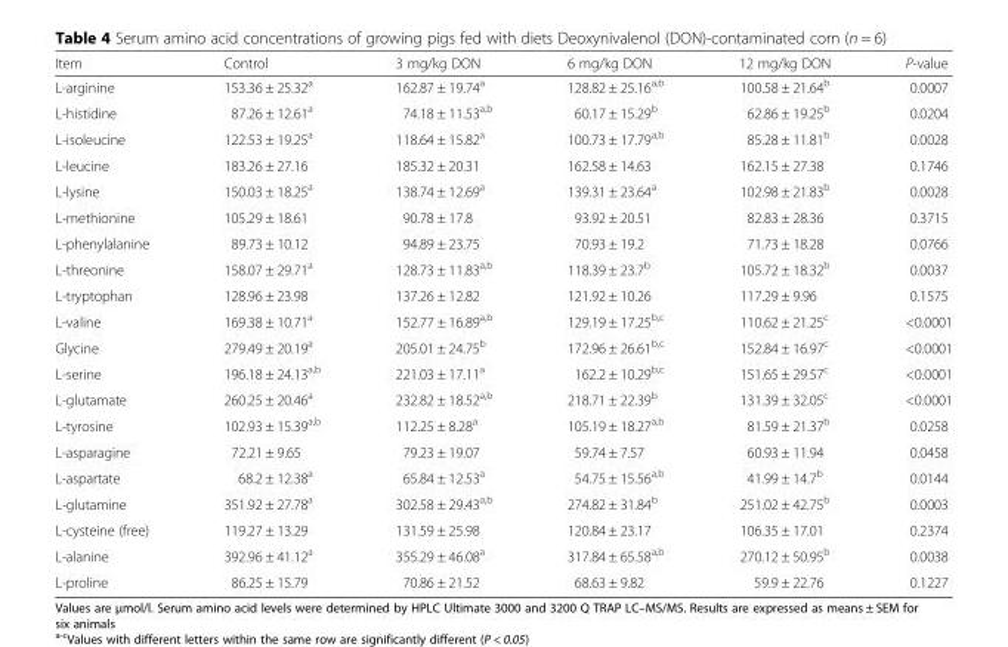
<table><thead><tr><td>Item</td><td>Control</td><td>3 mg/kg DON</td><td>6 mg/kg DON</td><td>12 mg/kg DON</td><td>P-value</td></tr></thead><tbody><tr><td>L-arginine</td><td>153.36 ± 25.32<sup>a</sup></td><td>162.87 ± 19.74<sup>a</sup></td><td>128.82 ± 25.16<sup>a,b</sup></td><td>100.58 ± 21.64<sup>b</sup></td><td>0.0007</td></tr><tr><td>L-histidine</td><td>87.26 ± 12.61<sup>a</sup></td><td>74.18 ± 11.53<sup>a,b</sup></td><td>60.17 ± 15.29<sup>b</sup></td><td>62.86 ± 19.25<sup>b</sup></td><td>0.0204</td></tr><tr><td>L-isoleucine</td><td>122.53 ± 19.25<sup>a</sup></td><td>118.64 ± 15.82<sup>a</sup></td><td>100.73 ± 17.79<sup>a,b</sup></td><td>85.28 ± 11.81<sup>b</sup></td><td>0.0028</td></tr><tr><td>L-leucine</td><td>183.26 ± 27.16</td><td>185.32 ± 20.31</td><td>162.58 ± 14.63</td><td>162.15 ± 27.38</td><td>0.1746</td></tr><tr><td>L-lysine</td><td>150.03 ± 18.25<sup>a</sup></td><td>138.74 ± 12.69<sup>a</sup></td><td>139.31 ± 23.64<sup>a</sup></td><td>102.98 ± 21.83<sup>b</sup></td><td>0.0028</td></tr><tr><td>L-methionine</td><td>105.29 ± 18.61</td><td>90.78 ± 17.8</td><td>93.92 ± 20.51</td><td>82.83 ± 28.36</td><td>0.3715</td></tr><tr><td>L-phenylalanine</td><td>89.73 ± 10.12</td><td>94.89 ± 23.75</td><td>70.93 ± 19.2</td><td>71.73 ± 18.28</td><td>0.0766</td></tr><tr><td>L-threonine</td><td>158.07 ± 29.71<sup>a</sup></td><td>128.73 ± 11.83<sup>a,b</sup></td><td>118.39 ± 23.7<sup>b</sup></td><td>105.72 ± 18.32<sup>b</sup></td><td>0.0037</td></tr><tr><td>L-tryptophan</td><td>128.96 ± 23.98</td><td>137.26 ± 12.82</td><td>121.92 ± 10.26</td><td>117.29 ± 9.96</td><td>0.1575</td></tr><tr><td>L-valine</td><td>169.38 ± 10.71<sup>a</sup></td><td>152.77 ± 16.89<sup>a,b</sup></td><td>129.19 ± 17.25<sup>b,c</sup></td><td>110.62 ± 21.25<sup>c</sup></td><td>&lt;0.0001</td></tr><tr><td>Glycine</td><td>279.49 ± 20.19<sup>a</sup></td><td>205.01 ± 24.75<sup>b</sup></td><td>172.96 ± 26.61<sup>b,c</sup></td><td>152.84 ± 16.97<sup>c</sup></td><td>&lt;0.0001</td></tr><tr><td>L-serine</td><td>196.18 ± 24.13<sup>a,b</sup></td><td>221.03 ± 17.11<sup>a</sup></td><td>162.2 ± 10.29<sup>b,c</sup></td><td>151.65 ± 29.57<sup>c</sup></td><td>&lt;0.0001</td></tr><tr><td>L-glutamate</td><td>260.25 ± 20.46<sup>a</sup></td><td>232.82 ± 18.52<sup>a,b</sup></td><td>218.71 ± 22.39<sup>b</sup></td><td>131.39 ± 32.05<sup>c</sup></td><td>&lt;0.0001</td></tr><tr><td>L-tyrosine</td><td>102.93 ± 15.39<sup>a,b</sup></td><td>112.25 ± 8.28<sup>a</sup></td><td>105.19 ± 18.27<sup>a,b</sup></td><td>81.59 ± 21.37<sup>b</sup></td><td>0.0258</td></tr><tr><td>L-asparagine</td><td>72.21 ± 9.65</td><td>79.23 ± 19.07</td><td>59.74 ± 7.57</td><td>60.93 ± 11.94</td><td>0.0458</td></tr><tr><td>L-aspartate</td><td>68.2 ± 12.38<sup>a</sup></td><td>65.84 ± 12.53<sup>a</sup></td><td>54.75 ± 15.56<sup>a,b</sup></td><td>41.99 ± 14.7<sup>b</sup></td><td>0.0144</td></tr><tr><td>L-glutamine</td><td>351.92 ± 27.78<sup>a</sup></td><td>302.58 ± 29.43<sup>a,b</sup></td><td>274.82 ± 31.84<sup>b</sup></td><td>251.02 ± 42.75<sup>b</sup></td><td>0.0003</td></tr><tr><td>L-cysteine (free)</td><td>119.27 ± 13.29</td><td>131.59 ± 25.98</td><td>120.84 ± 23.17</td><td>106.35 ± 17.01</td><td>0.2374</td></tr><tr><td>L-alanine</td><td>392.96 ± 41.12<sup>a</sup></td><td>355.29 ± 46.08<sup>a</sup></td><td>317.84 ± 65.58<sup>a,b</sup></td><td>270.12 ± 50.95<sup>b</sup></td><td>0.0038</td></tr><tr><td>L-proline</td><td>86.25 ± 15.79</td><td>70.86 ± 21.52</td><td>68.63 ± 9.82</td><td>59.9 ± 22.76</td><td>0.1227</td></tr></tbody></table>